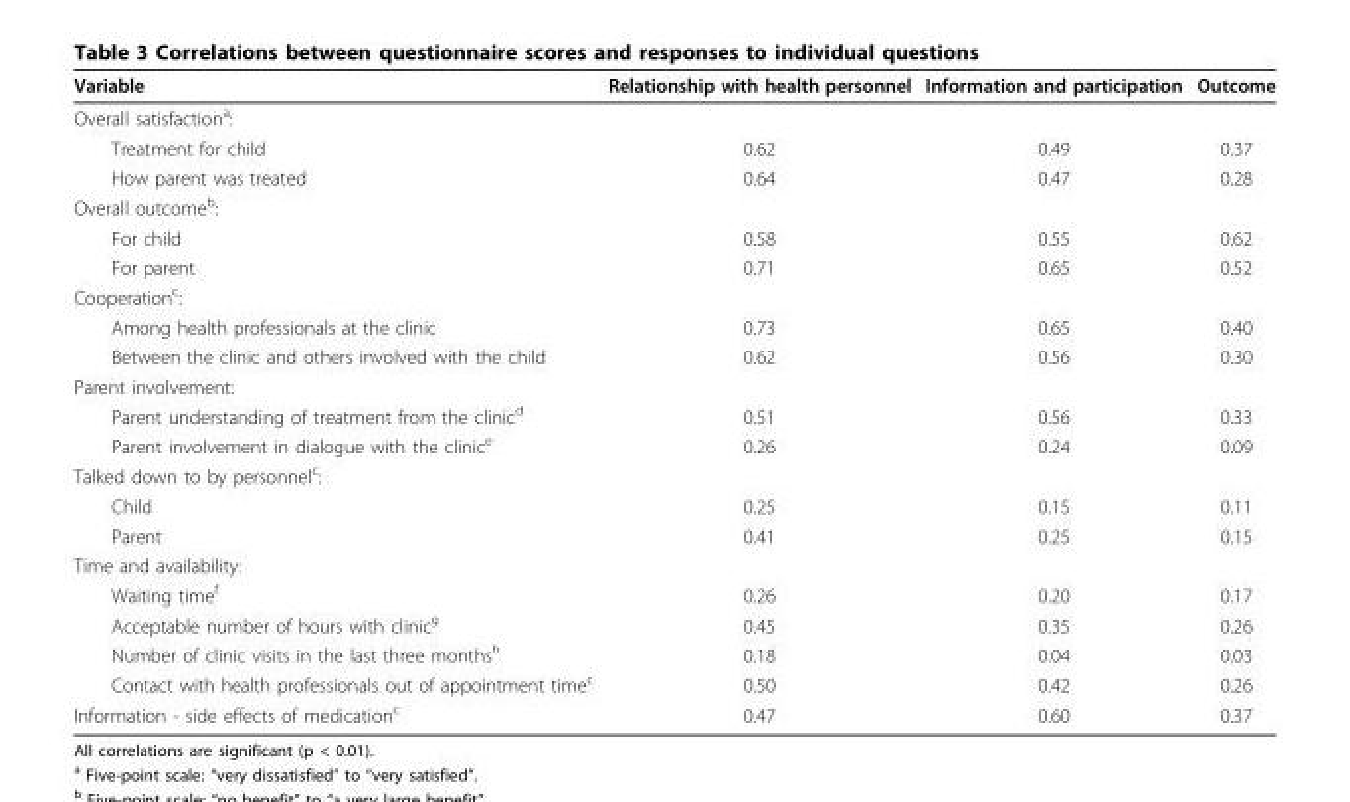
<table><thead><tr><td>Variable</td><td>Relationship with health personnel</td><td>Information and participation</td><td>Outcome</td></tr></thead><tbody><tr><td colspan="4">Overall satisfaction<sup>a</sup>:</td></tr><tr><td>Treatment for child</td><td>0.62</td><td>0.49</td><td>0.37</td></tr><tr><td>How parent was treated</td><td>0.64</td><td>0.47</td><td>0.28</td></tr><tr><td colspan="4">Overall outcome<sup>b</sup>:</td></tr><tr><td>For child</td><td>0.58</td><td>0.55</td><td>0.62</td></tr><tr><td>For parent</td><td>0.71</td><td>0.65</td><td>0.52</td></tr><tr><td colspan="4">Cooperation<sup>c</sup>:</td></tr><tr><td>Among health professionals at the clinic</td><td>0.73</td><td>0.65</td><td>0.40</td></tr><tr><td>Between the clinic and others involved with the child</td><td>0.62</td><td>0.56</td><td>0.30</td></tr><tr><td colspan="4">Parent involvement:</td></tr><tr><td>Parent understanding of treatment from the clinic<sup>d</sup></td><td>0.51</td><td>0.56</td><td>0.33</td></tr><tr><td>Parent involvement in dialogue with the clinic<sup>e</sup></td><td>0.26</td><td>0.24</td><td>0.09</td></tr><tr><td colspan="4">Talked down to by personnel<sup>c</sup>:</td></tr><tr><td>Child</td><td>0.25</td><td>0.15</td><td>0.11</td></tr><tr><td>Parent</td><td>0.41</td><td>0.25</td><td>0.15</td></tr><tr><td colspan="4">Time and availability:</td></tr><tr><td>Waiting time<sup>f</sup></td><td>0.26</td><td>0.20</td><td>0.17</td></tr><tr><td>Acceptable number of hours with clinic<sup>g</sup></td><td>0.45</td><td>0.35</td><td>0.26</td></tr><tr><td>Number of clinic visits in the last three months<sup>h</sup></td><td>0.18</td><td>0.04</td><td>0.03</td></tr><tr><td>Contact with health professionals out of appointment time<sup>c</sup></td><td>0.50</td><td>0.42</td><td>0.26</td></tr><tr><td>Information - side effects of medication<sup>c</sup></td><td>0.47</td><td>0.60</td><td>0.37</td></tr></tbody></table>